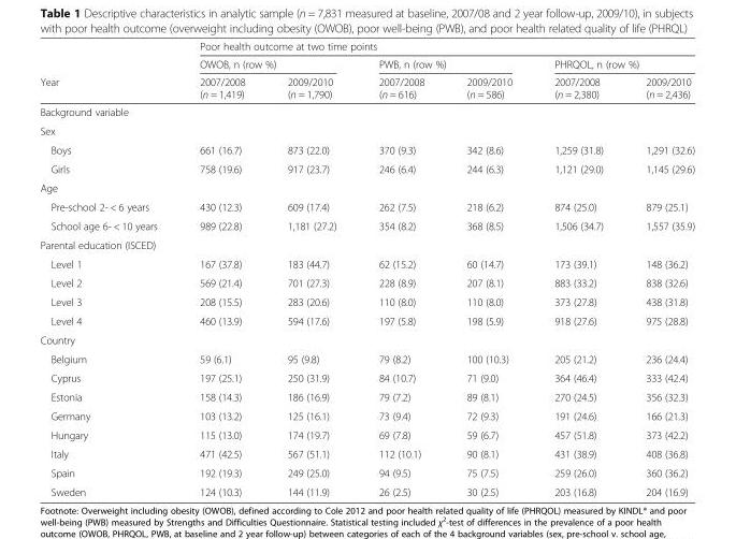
<table><thead><tr><td rowspan="3">Year</td><td colspan="6">Poor health outcome at two time points</td></tr><tr><td colspan="2">OWOB, n (row %)</td><td colspan="2">PWB, n (row %)</td><td colspan="2">PHRQOL, n (row %)</td></tr><tr><td>2007/2008 (n = 1,419)</td><td>2009/2010 (n = 1,790)</td><td>2007/2008 (n = 616)</td><td>2009/2010 (n = 586)</td><td>2007/2008 (n = 2,380)</td><td>2009/2010 (n = 2,436)</td></tr></thead><tbody><tr><td colspan="7">Background variable</td></tr><tr><td colspan="7">Sex</td></tr><tr><td>Boys</td><td>661 (16.7)</td><td>873 (22.0)</td><td>370 (9.3)</td><td>342 (8.6)</td><td>1,259 (31.8)</td><td>1,291 (32.6)</td></tr><tr><td>Girls</td><td>758 (19.6)</td><td>917 (23.7)</td><td>246 (6.4)</td><td>244 (6.3)</td><td>1,121 (29.0)</td><td>1,145 (29.6)</td></tr><tr><td colspan="7">Age</td></tr><tr><td>Pre-school 2- &lt; 6 years</td><td>430 (12.3)</td><td>609 (17.4)</td><td>262 (7.5)</td><td>218 (6.2)</td><td>874 (25.0)</td><td>879 (25.1)</td></tr><tr><td>School age 6- &lt; 10 years</td><td>989 (22.8)</td><td>1,181 (27.2)</td><td>354 (8.2)</td><td>368 (8.5)</td><td>1,506 (34.7)</td><td>1,557 (35.9)</td></tr><tr><td colspan="7">Parental education (ISCED)</td></tr><tr><td>Level 1</td><td>167 (37.8)</td><td>183 (44.7)</td><td>62 (15.2)</td><td>60 (14.7)</td><td>173 (39.1)</td><td>148 (36.2)</td></tr><tr><td>Level 2</td><td>569 (21.4)</td><td>701 (27.3)</td><td>228 (8.9)</td><td>207 (8.1)</td><td>883 (33.2)</td><td>838 (32.6)</td></tr><tr><td>Level 3</td><td>208 (15.5)</td><td>283 (20.6)</td><td>110 (8.0)</td><td>110 (8.0)</td><td>373 (27.8)</td><td>438 (31.8)</td></tr><tr><td>Level 4</td><td>460 (13.9)</td><td>594 (17.6)</td><td>197 (5.8)</td><td>198 (5.9)</td><td>918 (27.6)</td><td>975 (28.8)</td></tr><tr><td colspan="7">Country</td></tr><tr><td>Belgium</td><td>59 (6.1)</td><td>95 (9.8)</td><td>79 (8.2)</td><td>100 (10.3)</td><td>205 (21.2)</td><td>236 (24.4)</td></tr><tr><td>Cyprus</td><td>197 (25.1)</td><td>250 (31.9)</td><td>84 (10.7)</td><td>71 (9.0)</td><td>364 (46.4)</td><td>333 (42.4)</td></tr><tr><td>Estonia</td><td>158 (14.3)</td><td>186 (16.9)</td><td>79 (7.2)</td><td>89 (8.1)</td><td>270 (24.5)</td><td>356 (32.3)</td></tr><tr><td>Germany</td><td>103 (13.2)</td><td>125 (16.1)</td><td>73 (9.4)</td><td>72 (9.3)</td><td>191 (24.6)</td><td>166 (21.3)</td></tr><tr><td>Hungary</td><td>115 (13.0)</td><td>174 (19.7)</td><td>69 (7.8)</td><td>59 (6.7)</td><td>457 (51.8)</td><td>373 (42.2)</td></tr><tr><td>Italy</td><td>471 (42.5)</td><td>567 (51.1)</td><td>112 (10.1)</td><td>90 (8.1)</td><td>431 (38.9)</td><td>408 (36.8)</td></tr><tr><td>Spain</td><td>192 (19.3)</td><td>249 (25.0)</td><td>94 (9.5)</td><td>75 (7.5)</td><td>259 (26.0)</td><td>360 (36.2)</td></tr><tr><td>Sweden</td><td>124 (10.3)</td><td>144 (11.9)</td><td>26 (2.5)</td><td>30 (2.5)</td><td>203 (16.8)</td><td>204 (16.9)</td></tr></tbody></table>